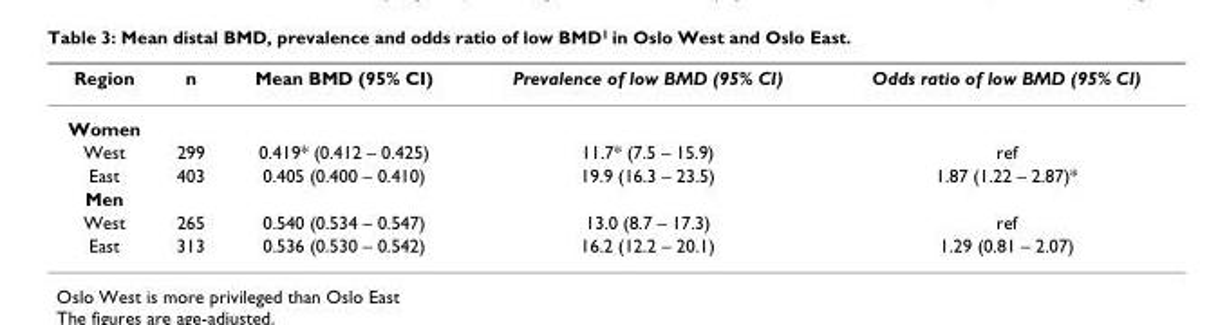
<table><thead><tr><td>Region</td><td>n</td><td>Mean BMD (95% CI)</td><td>Prevalence of low BMD (95% CI)</td><td>Odds ratio of low BMD (95% CI)</td></tr></thead><tbody><tr><td colspan="5">Women</td></tr><tr><td>West</td><td>299</td><td>0.419* (0.412 – 0.425)</td><td>11.7* (7.5 – 15.9)</td><td>ref</td></tr><tr><td>East</td><td>403</td><td>0.405 (0.400 – 0.410)</td><td>19.9 (16.3 – 23.5)</td><td>1.87 (1.22 – 2.87)*</td></tr><tr><td colspan="5">Men</td></tr><tr><td>West</td><td>265</td><td>0.540 (0.534 – 0.547)</td><td>13.0 (8.7 – 17.3)</td><td>ref</td></tr><tr><td>East</td><td>313</td><td>0.536 (0.530 – 0.542)</td><td>16.2 (12.2 – 20.1)</td><td>1.29 (0.81 – 2.07)</td></tr></tbody></table>